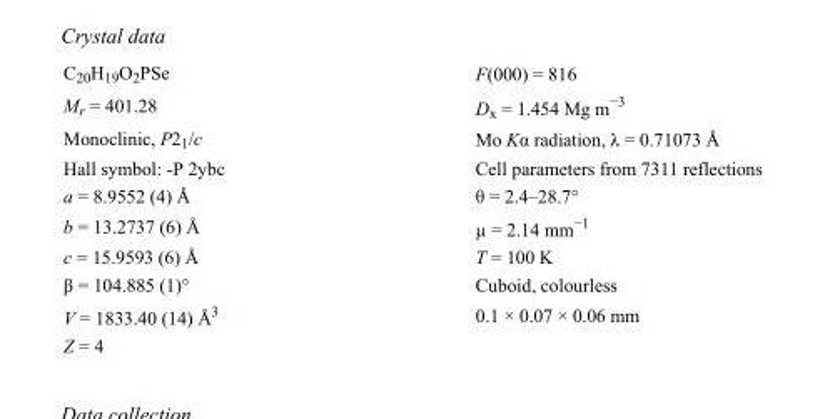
<table><tbody><tr><td>C<sub>20</sub>H<sub>19</sub>O<sub>2</sub>PSe</td><td>F(000) = 816</td></tr><tr><td>M<sub>r</sub> = 401.28</td><td>D<sub>x</sub> = 1.454 Mg m<sup>−3</sup></td></tr><tr><td>Monoclinic, P2<sub>1</sub>/c</td><td>Mo Kα radiation, λ = 0.71073 Å</td></tr><tr><td>Hall symbol: -P 2ybc</td><td>Cell parameters from 7311 reflections</td></tr><tr><td>a = 8.9552 (4) Å</td><td>θ = 2.4–28.7°</td></tr><tr><td>b = 13.2737 (6) Å</td><td>µ = 2.14 mm<sup>−1</sup></td></tr><tr><td>c = 15.9593 (6) Å</td><td>T = 100 K</td></tr><tr><td>β = 104.885 (1)°</td><td>Cuboid, colourless</td></tr><tr><td>V = 1833.40 (14) Å<sup>3</sup></td><td>0.1 × 0.07 × 0.06 mm</td></tr><tr><td>Z = 4</td><td></td></tr></tbody></table>